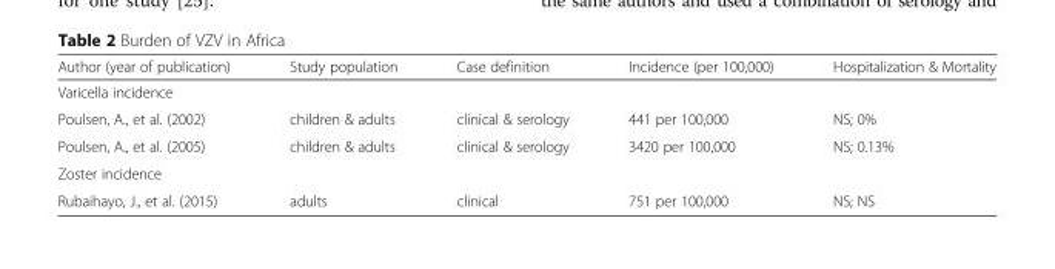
<table><thead><tr><td>Author (year of publication)</td><td>Study population</td><td>Case definition</td><td>Incidence (per 100,000)</td><td>Hospitalization &amp; Mortality</td></tr></thead><tbody><tr><td colspan="5">Varicella incidence</td></tr><tr><td>Poulsen, A., et al. (2002)</td><td>children &amp; adults</td><td>clinical &amp; serology</td><td>441 per 100,000</td><td>NS; 0%</td></tr><tr><td>Poulsen, A., et al. (2005)</td><td>children &amp; adults</td><td>clinical &amp; serology</td><td>3420 per 100,000</td><td>NS; 0.13%</td></tr><tr><td colspan="5">Zoster incidence</td></tr><tr><td>Rubaihayo, J., et al. (2015)</td><td>adults</td><td>clinical</td><td>751 per 100,000</td><td>NS; NS</td></tr></tbody></table>